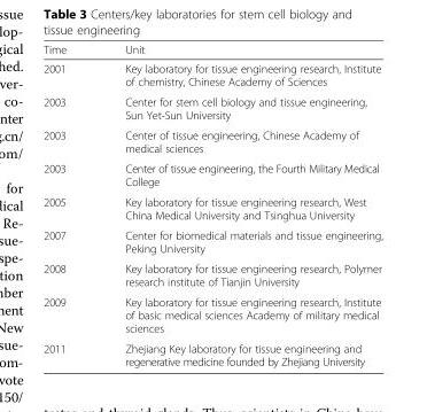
<table><thead><tr><td>Time</td><td>Unit</td></tr></thead><tbody><tr><td>2001</td><td>Key laboratory for tissue engineering research, Institute of chemistry, Chinese Academy of Sciences</td></tr><tr><td>2003</td><td>Center for stem cell biology and tissue engineering, Sun Yet-Sun University</td></tr><tr><td>2003</td><td>Center of tissue engineering, Chinese Academy of medical sciences</td></tr><tr><td>2003</td><td>Center of tissue engineering, the Fourth Military Medical College</td></tr><tr><td>2005</td><td>Key laboratory for tissue engineering research, West China Medical University and Tsinghua University</td></tr><tr><td>2007</td><td>Center for biomedical materials and tissue engineering, Peking University</td></tr><tr><td>2008</td><td>Key laboratory for tissue engineering research, Polymer research institute of Tianjin University</td></tr><tr><td>2009</td><td>Key laboratory for tissue engineering research, Institute of basic medical sciences Academy of military medical sciences</td></tr><tr><td>2011</td><td>Zhejiang Key laboratory for tissue engineering and regenerative medicine founded by Zhejiang University</td></tr></tbody></table>